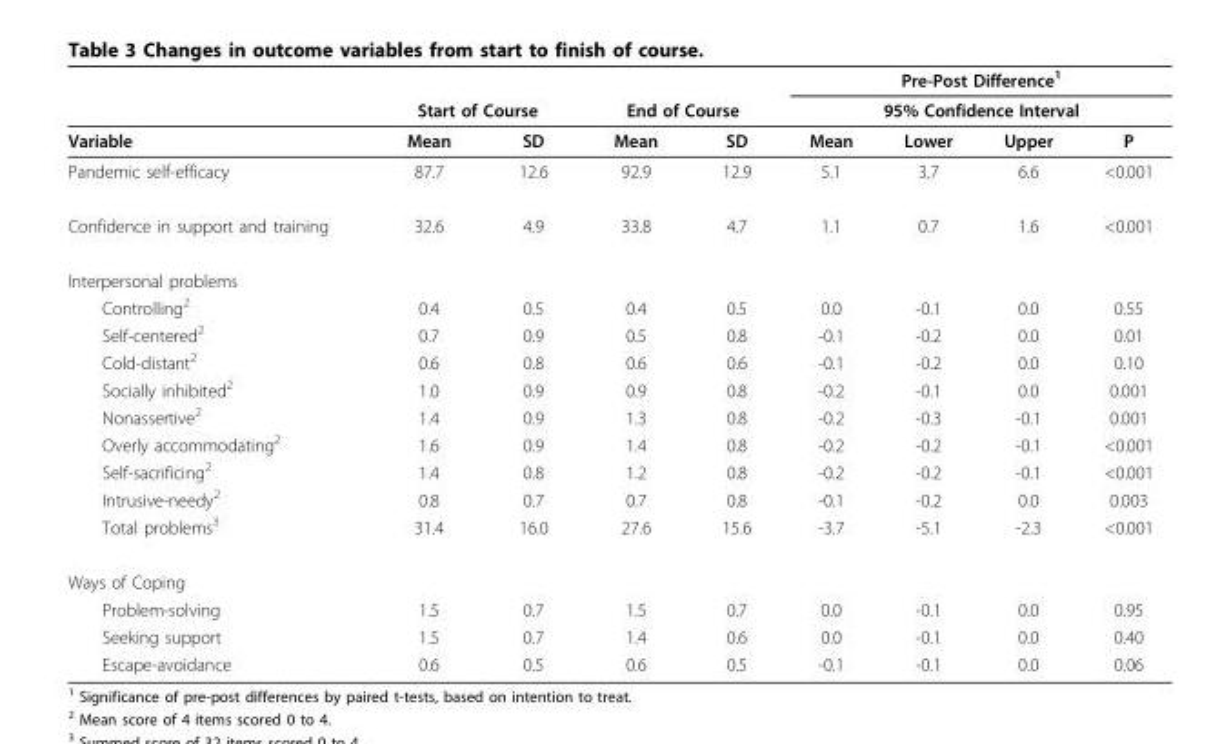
<table><thead><tr><td rowspan="3">Variable</td><td></td><td></td><td></td><td></td><td rowspan="2" colspan="4">Pre-Post Difference<sup>1</sup> 95% Confidence Interval</td></tr><tr><td colspan="2">Start of Course</td><td colspan="2">End of Course</td></tr><tr><td>Mean</td><td>SD</td><td>Mean</td><td>SD</td><td>Mean</td><td>Lower</td><td>Upper</td><td>P</td></tr></thead><tbody><tr><td>Pandemic self-efficacy</td><td>87.7</td><td>12.6</td><td>92.9</td><td>12.9</td><td>5.1</td><td>3.7</td><td>6.6</td><td>&lt;0.001</td></tr><tr><td>Confidence in support and training</td><td>32.6</td><td>4.9</td><td>33.8</td><td>4.7</td><td>1.1</td><td>0.7</td><td>1.6</td><td>&lt;0.001</td></tr><tr><td colspan="9">Interpersonal problems</td></tr><tr><td>Controlling<sup>2</sup></td><td>0.4</td><td>0.5</td><td>0.4</td><td>0.5</td><td>0.0</td><td>-0.1</td><td>0.0</td><td>0.55</td></tr><tr><td>Self-centered<sup>2</sup></td><td>0.7</td><td>0.9</td><td>0.5</td><td>0.8</td><td>-0.1</td><td>-0.2</td><td>0.0</td><td>0.01</td></tr><tr><td>Cold-distant<sup>2</sup></td><td>0.6</td><td>0.8</td><td>0.6</td><td>0.6</td><td>-0.1</td><td>-0.2</td><td>0.0</td><td>0.10</td></tr><tr><td>Socially inhibited<sup>2</sup></td><td>1.0</td><td>0.9</td><td>0.9</td><td>0.8</td><td>-0.2</td><td>-0.1</td><td>0.0</td><td>0.001</td></tr><tr><td>Nonassertive<sup>2</sup></td><td>1.4</td><td>0.9</td><td>1.3</td><td>0.8</td><td>-0.2</td><td>-0.3</td><td>-0.1</td><td>0.001</td></tr><tr><td>Overly accommodating<sup>2</sup></td><td>1.6</td><td>0.9</td><td>1.4</td><td>0.8</td><td>-0.2</td><td>-0.2</td><td>-0.1</td><td>&lt;0.001</td></tr><tr><td>Self-sacrificing<sup>2</sup></td><td>1.4</td><td>0.8</td><td>1.2</td><td>0.8</td><td>-0.2</td><td>-0.2</td><td>-0.1</td><td>&lt;0.001</td></tr><tr><td>Intrusive-needy<sup>2</sup></td><td>0.8</td><td>0.7</td><td>0.7</td><td>0.8</td><td>-0.1</td><td>-0.2</td><td>0.0</td><td>0.003</td></tr><tr><td>Total problems<sup>3</sup></td><td>31.4</td><td>16.0</td><td>27.6</td><td>15.6</td><td>-3.7</td><td>-5.1</td><td>-2.3</td><td>&lt;0.001</td></tr><tr><td colspan="9">Ways of Coping</td></tr><tr><td>Problem-solving</td><td>1.5</td><td>0.7</td><td>1.5</td><td>0.7</td><td>0.0</td><td>-0.1</td><td>0.0</td><td>0.95</td></tr><tr><td>Seeking support</td><td>1.5</td><td>0.7</td><td>1.4</td><td>0.6</td><td>0.0</td><td>-0.1</td><td>0.0</td><td>0.40</td></tr><tr><td>Escape-avoidance</td><td>0.6</td><td>0.5</td><td>0.6</td><td>0.5</td><td>-0.1</td><td>-0.1</td><td>0.0</td><td>0.06</td></tr></tbody></table>